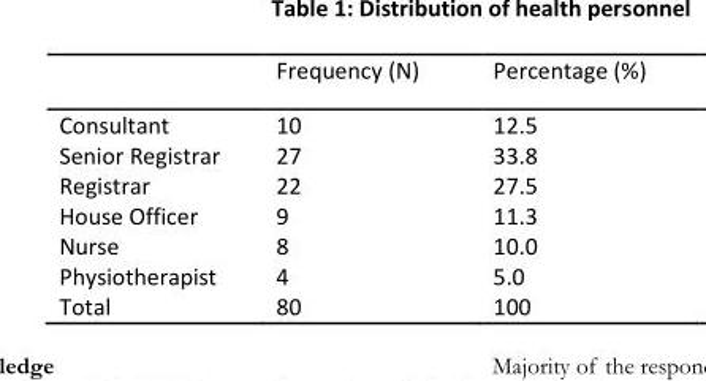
<table><thead><tr><td></td><td>Frequency (N)</td><td>Percentage (%)</td></tr></thead><tbody><tr><td>Consultant</td><td>10</td><td>12.5</td></tr><tr><td>Senior Registrar</td><td>27</td><td>33.8</td></tr><tr><td>Registrar</td><td>22</td><td>27.5</td></tr><tr><td>House Officer</td><td>9</td><td>11.3</td></tr><tr><td>Nurse</td><td>8</td><td>10.0</td></tr><tr><td>Physiotherapist</td><td>4</td><td>5.0</td></tr><tr><td>Total</td><td>80</td><td>100</td></tr></tbody></table>